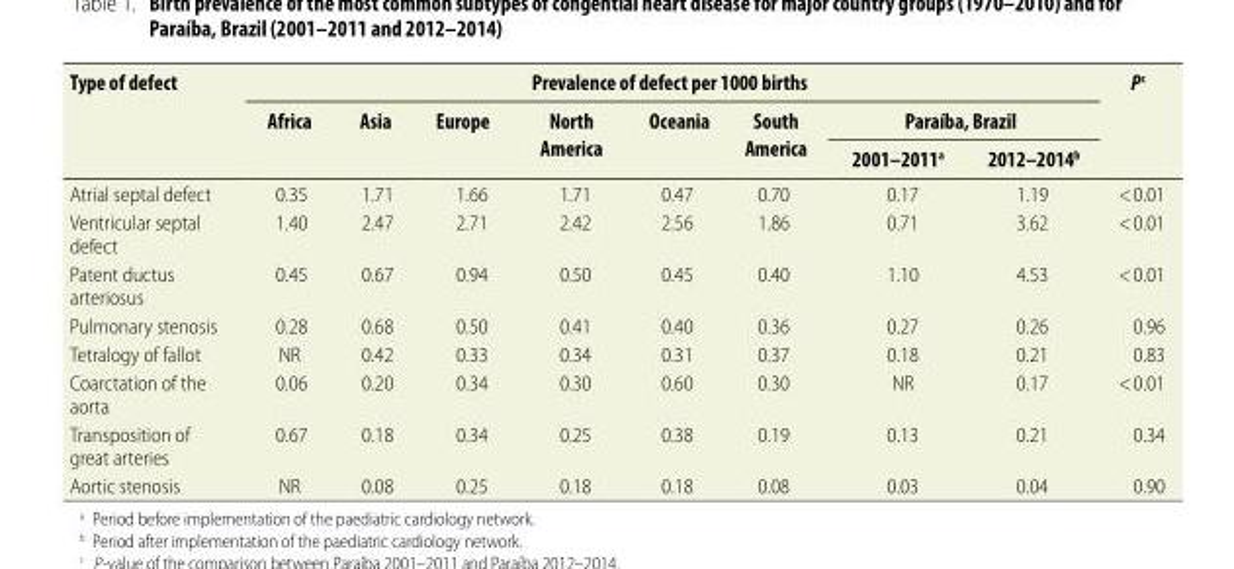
<table><thead><tr><td rowspan="3">Type of defect</td><td colspan="8">Prevalence of defect per 1000 births</td><td rowspan="3">P<sup>c</sup></td></tr><tr><td rowspan="2">Africa</td><td rowspan="2">Asia</td><td rowspan="2">Europe</td><td rowspan="2">North America</td><td rowspan="2">Oceania</td><td rowspan="2">South America</td><td colspan="2">Paraíba, Brazil</td></tr><tr><td>2001–2011<sup>a</sup></td><td>2012–2014<sup>b</sup></td></tr></thead><tbody><tr><td>Atrial septal defect</td><td>0.35</td><td>1.71</td><td>1.66</td><td>1.71</td><td>0.47</td><td>0.70</td><td>0.17</td><td>1.19</td><td>&lt; 0.01</td></tr><tr><td>Ventricular septal defect</td><td>1.40</td><td>2.47</td><td>2.71</td><td>2.42</td><td>2.56</td><td>1.86</td><td>0.71</td><td>3.62</td><td>&lt; 0.01</td></tr><tr><td>Patent ductus arteriosus</td><td>0.45</td><td>0.67</td><td>0.94</td><td>0.50</td><td>0.45</td><td>0.40</td><td>1.10</td><td>4.53</td><td>&lt; 0.01</td></tr><tr><td>Pulmonary stenosis</td><td>0.28</td><td>0.68</td><td>0.50</td><td>0.41</td><td>0.40</td><td>0.36</td><td>0.27</td><td>0.26</td><td>0.96</td></tr><tr><td>Tetralogy of fallot</td><td>NR</td><td>0.42</td><td>0.33</td><td>0.34</td><td>0.31</td><td>0.37</td><td>0.18</td><td>0.21</td><td>0.83</td></tr><tr><td>Coarctation of the aorta</td><td>0.06</td><td>0.20</td><td>0.34</td><td>0.30</td><td>0.60</td><td>0.30</td><td>NR</td><td>0.17</td><td>&lt; 0.01</td></tr><tr><td>Transposition of great arteries</td><td>0.67</td><td>0.18</td><td>0.34</td><td>0.25</td><td>0.38</td><td>0.19</td><td>0.13</td><td>0.21</td><td>0.34</td></tr><tr><td>Aortic stenosis</td><td>NR</td><td>0.08</td><td>0.25</td><td>0.18</td><td>0.18</td><td>0.08</td><td>0.03</td><td>0.04</td><td>0.90</td></tr></tbody></table>